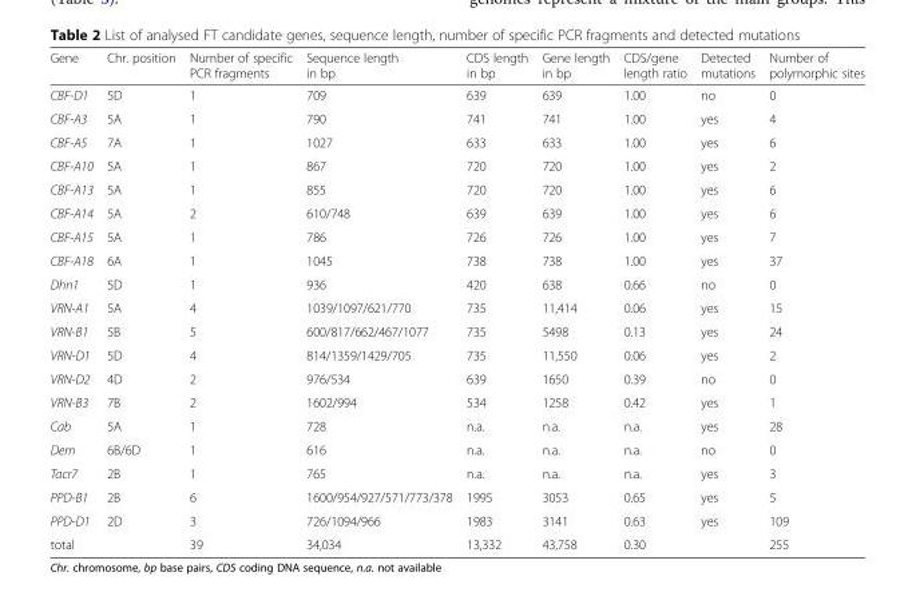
<table><thead><tr><td>Gene</td><td>Chr. position</td><td>Number of specific PCR fragments</td><td>Sequence length in bp</td><td>CDS length in bp</td><td>Gene length in bp</td><td>CDS/gene length ratio</td><td>Detected mutations</td><td>Number of polymorphic sites</td></tr></thead><tbody><tr><td>CBF-D1</td><td>5D</td><td>1</td><td>709</td><td>639</td><td>639</td><td>1.00</td><td>no</td><td>0</td></tr><tr><td>CBF-A3</td><td>5A</td><td>1</td><td>790</td><td>741</td><td>741</td><td>1.00</td><td>yes</td><td>4</td></tr><tr><td>CBF-A5</td><td>7A</td><td>1</td><td>1027</td><td>633</td><td>633</td><td>1.00</td><td>yes</td><td>6</td></tr><tr><td>CBF-A10</td><td>5A</td><td>1</td><td>867</td><td>720</td><td>720</td><td>1.00</td><td>yes</td><td>2</td></tr><tr><td>CBF-A13</td><td>5A</td><td>1</td><td>855</td><td>720</td><td>720</td><td>1.00</td><td>yes</td><td>6</td></tr><tr><td>CBF-A14</td><td>5A</td><td>2</td><td>610/748</td><td>639</td><td>639</td><td>1.00</td><td>yes</td><td>6</td></tr><tr><td>CBF-A15</td><td>5A</td><td>1</td><td>786</td><td>726</td><td>726</td><td>1.00</td><td>yes</td><td>7</td></tr><tr><td>CBF-A18</td><td>6A</td><td>1</td><td>1045</td><td>738</td><td>738</td><td>1.00</td><td>yes</td><td>37</td></tr><tr><td>Dhn1</td><td>5D</td><td>1</td><td>936</td><td>420</td><td>638</td><td>0.66</td><td>no</td><td>0</td></tr><tr><td>VRN-A1</td><td>5A</td><td>4</td><td>1039/1097/621/770</td><td>735</td><td>11,414</td><td>0.06</td><td>yes</td><td>15</td></tr><tr><td>VRN-B1</td><td>5B</td><td>5</td><td>600/817/662/467/1077</td><td>735</td><td>5498</td><td>0.13</td><td>yes</td><td>24</td></tr><tr><td>VRN-D1</td><td>5D</td><td>4</td><td>814/1359/1429/705</td><td>735</td><td>11,550</td><td>0.06</td><td>yes</td><td>2</td></tr><tr><td>VRN-D2</td><td>4D</td><td>2</td><td>976/534</td><td>639</td><td>1650</td><td>0.39</td><td>no</td><td>0</td></tr><tr><td>VRN-B3</td><td>7B</td><td>2</td><td>1602/994</td><td>534</td><td>1258</td><td>0.42</td><td>yes</td><td>1</td></tr><tr><td>Cab</td><td>5A</td><td>1</td><td>728</td><td>n.a.</td><td>n.a.</td><td>n.a.</td><td>yes</td><td>28</td></tr><tr><td>Dem</td><td>6B/6D</td><td>1</td><td>616</td><td>n.a.</td><td>n.a.</td><td>n.a.</td><td>no</td><td>0</td></tr><tr><td>Tacr7</td><td>2B</td><td>1</td><td>765</td><td>n.a.</td><td>n.a.</td><td>n.a.</td><td>yes</td><td>3</td></tr><tr><td>PPD-B1</td><td>2B</td><td>6</td><td>1600/954/927/571/773/378</td><td>1995</td><td>3053</td><td>0.65</td><td>yes</td><td>5</td></tr><tr><td>PPD-D1</td><td>2D</td><td>3</td><td>726/1094/966</td><td>1983</td><td>3141</td><td>0.63</td><td>yes</td><td>109</td></tr><tr><td>total</td><td></td><td>39</td><td>34,034</td><td>13,332</td><td>43,758</td><td>0.30</td><td></td><td>255</td></tr></tbody></table>